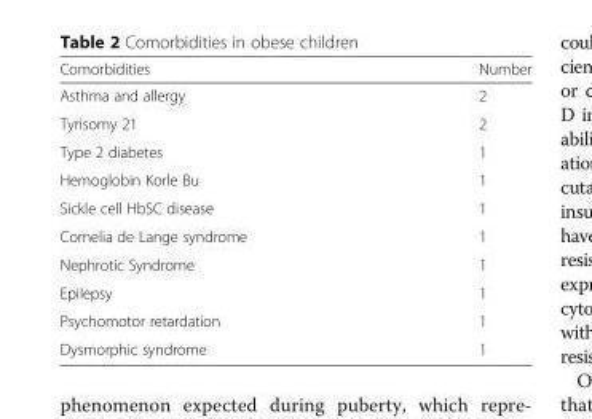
<table><thead><tr><td>Comorbidities</td><td>Number</td></tr></thead><tbody><tr><td>Asthma and allergy</td><td>2</td></tr><tr><td>Tyrisomy 21</td><td>2</td></tr><tr><td>Type 2 diabetes</td><td>1</td></tr><tr><td>Hemoglobin Korle Bu</td><td>1</td></tr><tr><td>Sickle cell HbSC disease</td><td>1</td></tr><tr><td>Cornelia de Lange syndrome</td><td>1</td></tr><tr><td>Nephrotic Syndrome</td><td>1</td></tr><tr><td>Epilepsy</td><td>1</td></tr><tr><td>Psychomotor retardation</td><td>1</td></tr><tr><td>Dysmorphic syndrome</td><td>1</td></tr></tbody></table>